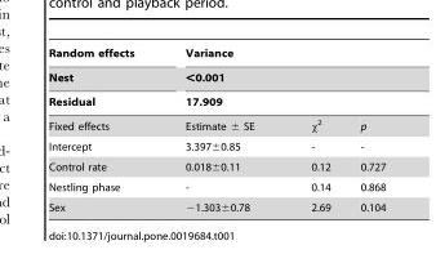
<table><thead><tr><td rowspan="4">Random effects Nest Residual Fixed effects</td><td rowspan="3" colspan="3">Variance &lt;0.001 17.909</td></tr><tr></tr><tr></tr><tr><td>Estimate ± SE</td><td>χ<sup>2</sup></td><td>p</td></tr></thead><tbody><tr><td>Intercept</td><td>3.397±0.85</td><td>-</td><td>-</td></tr><tr><td>Control rate</td><td>0.018±0.11</td><td>0.12</td><td>0.727</td></tr><tr><td>Nestling phase</td><td>-</td><td>0.14</td><td>0.868</td></tr><tr><td>Sex</td><td>−1.303±0.78</td><td>2.69</td><td>0.104</td></tr></tbody></table>